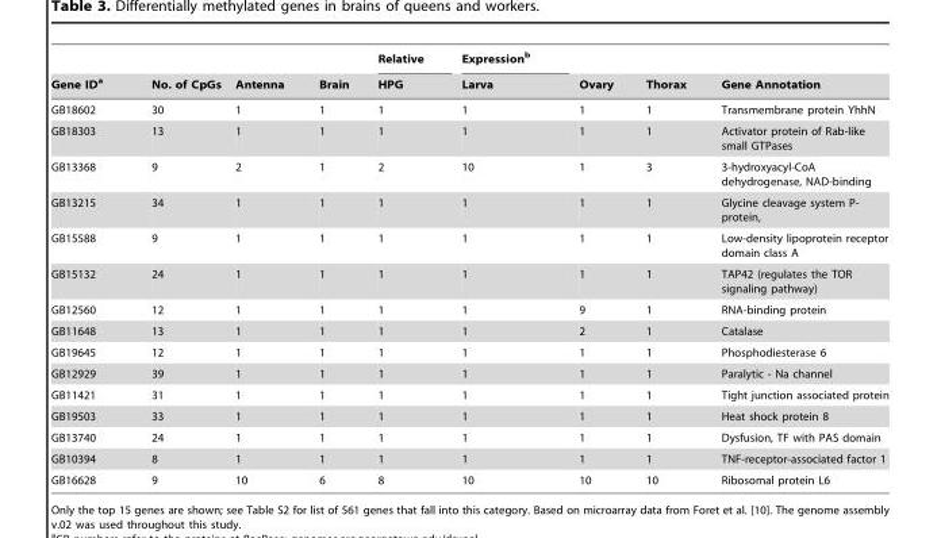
<table><thead><tr><td rowspan="2">Gene ID<sup>a</sup></td><td rowspan="2">No. of CpGs</td><td rowspan="2">Antenna</td><td rowspan="2">Brain</td><td rowspan="2">Relative HPG</td><td rowspan="2">Expression<sup>b</sup> Larva</td><td rowspan="2">Ovary</td><td rowspan="2">Thorax</td><td rowspan="2">Gene Annotation</td></tr><tr></tr></thead><tbody><tr><td>GB18602</td><td>30</td><td>1</td><td>1</td><td>1</td><td>1</td><td>1</td><td>1</td><td>Transmembrane protein YhhN</td></tr><tr><td>GB18303</td><td>13</td><td>1</td><td>1</td><td>1</td><td>1</td><td>1</td><td>1</td><td>Activator protein of Rab-like small GTPases</td></tr><tr><td>GB13368</td><td>9</td><td>2</td><td>1</td><td>2</td><td>10</td><td>1</td><td>3</td><td>3-hydroxyacyl-CoA dehydrogenase, NAD-binding</td></tr><tr><td>GB13215</td><td>34</td><td>1</td><td>1</td><td>1</td><td>1</td><td>1</td><td>1</td><td>Glycine cleavage system P- protein,</td></tr><tr><td>GB15588</td><td>9</td><td>1</td><td>1</td><td>1</td><td>1</td><td>1</td><td>1</td><td>Low-density lipoprotein receptor domain class A</td></tr><tr><td>GB15132</td><td>24</td><td>1</td><td>1</td><td>1</td><td>1</td><td>1</td><td>1</td><td>TAP42 (regulates the TOR signaling pathway)</td></tr><tr><td>GB12560</td><td>12</td><td>1</td><td>1</td><td>1</td><td>1</td><td>9</td><td>1</td><td>RNA-binding protein</td></tr><tr><td>GB11648</td><td>13</td><td>1</td><td>1</td><td>1</td><td>1</td><td>2</td><td>1</td><td>Catalase</td></tr><tr><td>GB19645</td><td>12</td><td>1</td><td>1</td><td>1</td><td>1</td><td>1</td><td>1</td><td>Phosphodiesterase 6</td></tr><tr><td>GB12929</td><td>39</td><td>1</td><td>1</td><td>1</td><td>1</td><td>1</td><td>1</td><td>Paralytic - Na channel</td></tr><tr><td>GB11421</td><td>31</td><td>1</td><td>1</td><td>1</td><td>1</td><td>1</td><td>1</td><td>Tight junction associated protein</td></tr><tr><td>GB19503</td><td>33</td><td>1</td><td>1</td><td>1</td><td>1</td><td>1</td><td>1</td><td>Heat shock protein 8</td></tr><tr><td>GB13740</td><td>24</td><td>1</td><td>1</td><td>1</td><td>1</td><td>1</td><td>1</td><td>Dysfusion, TF with PAS domain</td></tr><tr><td>GB10394</td><td>8</td><td>1</td><td>1</td><td>1</td><td>1</td><td>1</td><td>1</td><td>TNF-receptor-associated factor 1</td></tr><tr><td>GB16628</td><td>9</td><td>10</td><td>6</td><td>8</td><td>10</td><td>10</td><td>10</td><td>Ribosomal protein L6</td></tr></tbody></table>